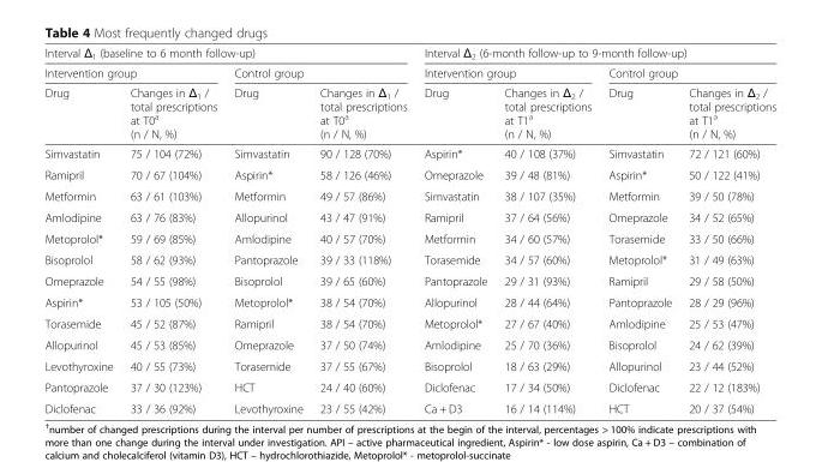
<table><thead><tr><td colspan="4">Interval Δ<sub>1</sub> (baseline to 6 month follow-up)</td><td colspan="4">Interval Δ<sub>2</sub> (6-month follow-up to 9-month follow-up)</td></tr><tr><td colspan="2">Intervention group</td><td colspan="2">Control group</td><td colspan="2">Intervention group</td><td colspan="2">Control group</td></tr><tr><td>Drug</td><td>Changes in Δ<sub>1</sub> / total prescriptions at T0<sup>a</sup> (n / N, %)</td><td>Drug</td><td>Changes in Δ<sub>1</sub> / total prescriptions at T0<sup>a</sup> (n / N, %)</td><td>Drug</td><td>Changes in Δ<sub>2</sub> / total prescriptions at T1<sup>a</sup> (n / N, %)</td><td>Drug</td><td>Changes in Δ<sub>2</sub> / total prescriptions at T1<sup>a</sup> (n / N, %)</td></tr></thead><tbody><tr><td>Simvastatin</td><td>75 / 104 (72%)</td><td>Simvastatin</td><td>90 / 128 (70%)</td><td>Aspirin*</td><td>40 / 108 (37%)</td><td>Simvastatin</td><td>72 / 121 (60%)</td></tr><tr><td>Ramipril</td><td>70 / 67 (104%)</td><td>Aspirin*</td><td>58 / 126 (46%)</td><td>Omeprazole</td><td>39 / 48 (81%)</td><td>Aspirin*</td><td>50 / 122 (41%)</td></tr><tr><td>Metformin</td><td>63 / 61 (103%)</td><td>Metformin</td><td>49 / 57 (86%)</td><td>Simvastatin</td><td>38 / 107 (35%)</td><td>Metformin</td><td>39 / 50 (78%)</td></tr><tr><td>Amlodipine</td><td>63 / 76 (83%)</td><td>Allopurinol</td><td>43 / 47 (91%)</td><td>Ramipril</td><td>37 / 64 (56%)</td><td>Omeprazole</td><td>34 / 52 (65%)</td></tr><tr><td>Metoprolol*</td><td>59 / 69 (85%)</td><td>Amlodipine</td><td>40 / 57 (70%)</td><td>Metformin</td><td>34 / 60 (57%)</td><td>Torasemide</td><td>33 / 50 (66%)</td></tr><tr><td>Bisoprolol</td><td>58 / 62 (93%)</td><td>Pantoprazole</td><td>39 / 33 (118%)</td><td>Torasemide</td><td>34 / 57 (60%)</td><td>Metoprolol*</td><td>31 / 49 (63%)</td></tr><tr><td>Omeprazole</td><td>54 / 55 (98%)</td><td>Bisoprolol</td><td>39 / 65 (60%)</td><td>Pantoprazole</td><td>29 / 31 (93%)</td><td>Ramipril</td><td>29 / 58 (50%)</td></tr><tr><td>Aspirin*</td><td>53 / 105 (50%)</td><td>Metoprolol*</td><td>38 / 54 (70%)</td><td>Allopurinol</td><td>28 / 44 (64%)</td><td>Pantoprazole</td><td>28 / 29 (96%)</td></tr><tr><td>Torasemide</td><td>45 / 52 (87%)</td><td>Ramipril</td><td>38 / 54 (70%)</td><td>Metoprolol*</td><td>27 / 67 (40%)</td><td>Amlodipine</td><td>25 / 53 (47%)</td></tr><tr><td>Allopurinol</td><td>45 / 53 (85%)</td><td>Omeprazole</td><td>37 / 50 (74%)</td><td>Amlodipine</td><td>25 / 70 (36%)</td><td>Bisoprolol</td><td>24 / 62 (39%)</td></tr><tr><td>Levothyroxine</td><td>40 / 55 (73%)</td><td>Torasemide</td><td>37 / 55 (67%)</td><td>Bisoprolol</td><td>18 / 63 (29%)</td><td>Allopurinol</td><td>23 / 44 (52%)</td></tr><tr><td>Pantoprazole</td><td>37 / 30 (123%)</td><td>HCT</td><td>24 / 40 (60%)</td><td>Diclofenac</td><td>17 / 34 (50%)</td><td>Diclofenac</td><td>22 / 12 (183%)</td></tr><tr><td>Diclofenac</td><td>33 / 36 (92%)</td><td>Levothyroxine</td><td>23 / 55 (42%)</td><td>Ca + D3</td><td>16 / 14 (114%)</td><td>HCT</td><td>20 / 37 (54%)</td></tr></tbody></table>